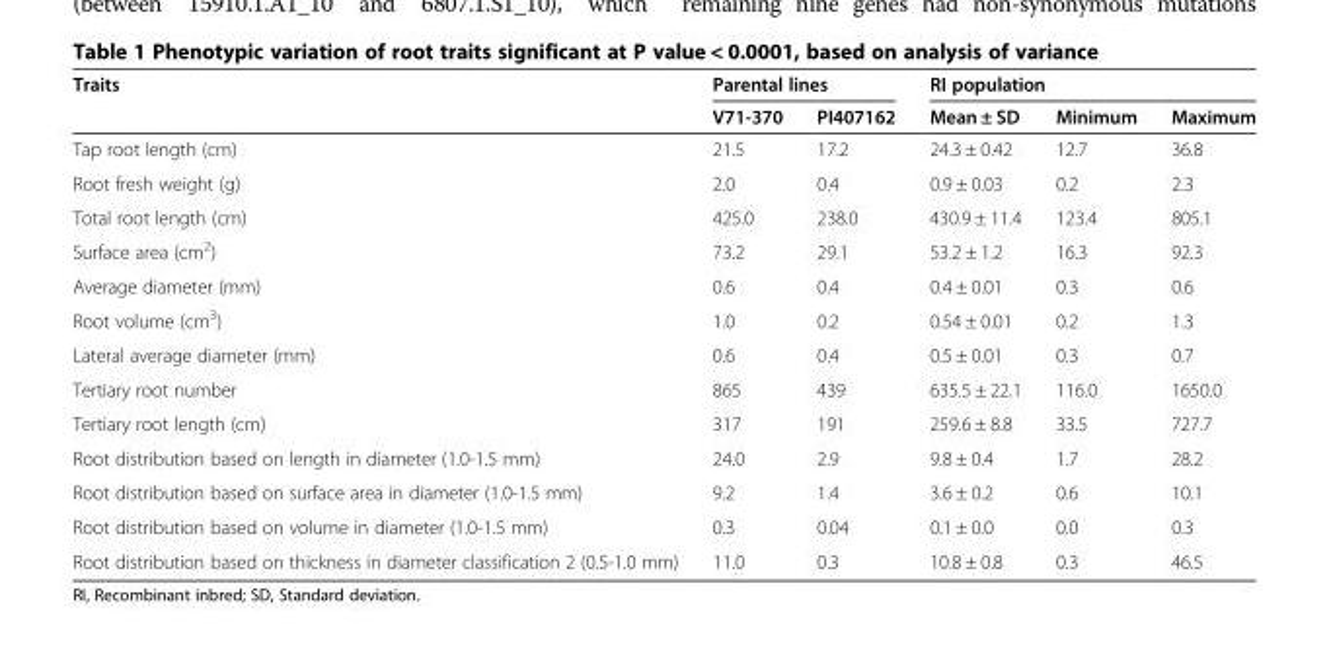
<table><thead><tr><td rowspan="2">Traits</td><td colspan="2">Parental lines</td><td colspan="3">RI population</td></tr><tr><td>V71-370</td><td>PI407162</td><td>Mean ± SD</td><td>Minimum</td><td>Maximum</td></tr></thead><tbody><tr><td>Tap root length (cm)</td><td>21.5</td><td>17.2</td><td>24.3 ± 0.42</td><td>12.7</td><td>36.8</td></tr><tr><td>Root fresh weight (g)</td><td>2.0</td><td>0.4</td><td>0.9 ± 0.03</td><td>0.2</td><td>2.3</td></tr><tr><td>Total root length (cm)</td><td>425.0</td><td>238.0</td><td>430.9 ± 11.4</td><td>123.4</td><td>805.1</td></tr><tr><td>Surface area (cm<sup>2</sup>)</td><td>73.2</td><td>29.1</td><td>53.2 ± 1.2</td><td>16.3</td><td>92.3</td></tr><tr><td>Average diameter (mm)</td><td>0.6</td><td>0.4</td><td>0.4 ± 0.01</td><td>0.3</td><td>0.6</td></tr><tr><td>Root volume (cm<sup>3</sup>)</td><td>1.0</td><td>0.2</td><td>0.54 ± 0.01</td><td>0.2</td><td>1.3</td></tr><tr><td>Lateral average diameter (mm)</td><td>0.6</td><td>0.4</td><td>0.5 ± 0.01</td><td>0.3</td><td>0.7</td></tr><tr><td>Tertiary root number</td><td>865</td><td>439</td><td>635.5 ± 22.1</td><td>116.0</td><td>1650.0</td></tr><tr><td>Tertiary root length (cm)</td><td>317</td><td>191</td><td>259.6 ± 8.8</td><td>33.5</td><td>727.7</td></tr><tr><td>Root distribution based on length in diameter (1.0-1.5 mm)</td><td>24.0</td><td>2.9</td><td>9.8 ± 0.4</td><td>1.7</td><td>28.2</td></tr><tr><td>Root distribution based on surface area in diameter (1.0-1.5 mm)</td><td>9.2</td><td>1.4</td><td>3.6 ± 0.2</td><td>0.6</td><td>10.1</td></tr><tr><td>Root distribution based on volume in diameter (1.0-1.5 mm)</td><td>0.3</td><td>0.04</td><td>0.1 ± 0.0</td><td>0.0</td><td>0.3</td></tr><tr><td>Root distribution based on thickness in diameter classification 2 (0.5-1.0 mm)</td><td>11.0</td><td>0.3</td><td>10.8 ± 0.8</td><td>0.3</td><td>46.5</td></tr></tbody></table>